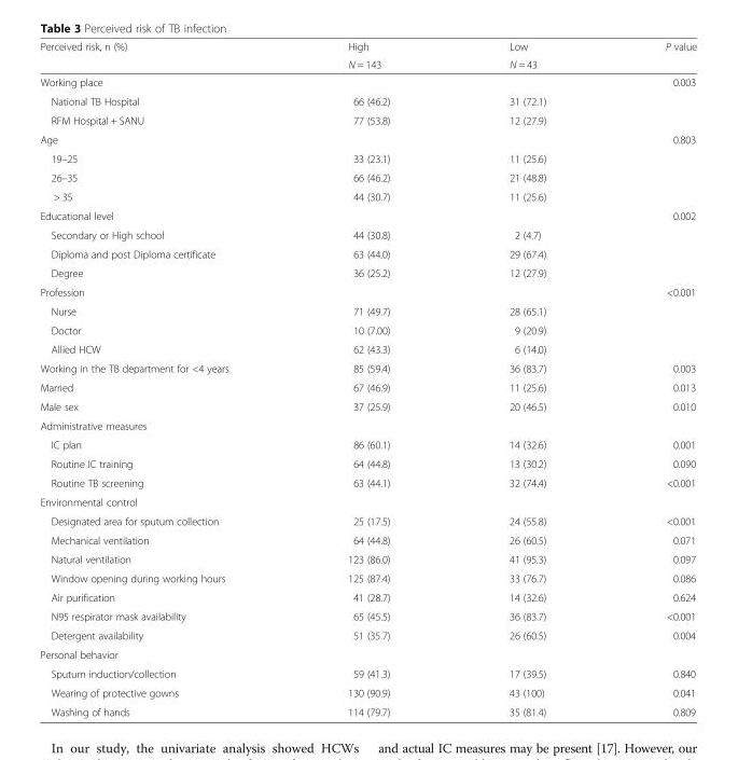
<table><thead><tr><td rowspan="2">Perceived risk, n (%)</td><td rowspan="2">High N = 143</td><td rowspan="2">Low N = 43</td><td rowspan="2">P value</td></tr><tr></tr></thead><tbody><tr><td>Working place</td><td></td><td></td><td>0.003</td></tr><tr><td>National TB Hospital</td><td>66 (46.2)</td><td>31 (72.1)</td><td></td></tr><tr><td>RFM Hospital + SANU</td><td>77 (53.8)</td><td>12 (27.9)</td><td></td></tr><tr><td>Age</td><td></td><td></td><td>0.803</td></tr><tr><td>19–25</td><td>33 (23.1)</td><td>11 (25.6)</td><td></td></tr><tr><td>26–35</td><td>66 (46.2)</td><td>21 (48.8)</td><td></td></tr><tr><td>&gt; 35</td><td>44 (30.7)</td><td>11 (25.6)</td><td></td></tr><tr><td>Educational level</td><td></td><td></td><td>0.002</td></tr><tr><td>Secondary or High school</td><td>44 (30.8)</td><td>2 (4.7)</td><td></td></tr><tr><td>Diploma and post Diploma certificate</td><td>63 (44.0)</td><td>29 (67.4)</td><td></td></tr><tr><td>Degree</td><td>36 (25.2)</td><td>12 (27.9)</td><td></td></tr><tr><td>Profession</td><td></td><td></td><td>&lt;0.001</td></tr><tr><td>Nurse</td><td>71 (49.7)</td><td>28 (65.1)</td><td></td></tr><tr><td>Doctor</td><td>10 (7.00)</td><td>9 (20.9)</td><td></td></tr><tr><td>Allied HCW</td><td>62 (43.3)</td><td>6 (14.0)</td><td></td></tr><tr><td>Working in the TB department for &lt;4 years</td><td>85 (59.4)</td><td>36 (83.7)</td><td>0.003</td></tr><tr><td>Married</td><td>67 (46.9)</td><td>11 (25.6)</td><td>0.013</td></tr><tr><td>Male sex</td><td>37 (25.9)</td><td>20 (46.5)</td><td>0.010</td></tr><tr><td colspan="4">Administrative measures</td></tr><tr><td>IC plan</td><td>86 (60.1)</td><td>14 (32.6)</td><td>0.001</td></tr><tr><td>Routine IC training</td><td>64 (44.8)</td><td>13 (30.2)</td><td>0.090</td></tr><tr><td>Routine TB screening</td><td>63 (44.1)</td><td>32 (74.4)</td><td>&lt;0.001</td></tr><tr><td colspan="4">Environmental control</td></tr><tr><td>Designated area for sputum collection</td><td>25 (17.5)</td><td>24 (55.8)</td><td>&lt;0.001</td></tr><tr><td>Mechanical ventilation</td><td>64 (44.8)</td><td>26 (60.5)</td><td>0.071</td></tr><tr><td>Natural ventilation</td><td>123 (86.0)</td><td>41 (95.3)</td><td>0.097</td></tr><tr><td>Window opening during working hours</td><td>125 (87.4)</td><td>33 (76.7)</td><td>0.086</td></tr><tr><td>Air purification</td><td>41 (28.7)</td><td>14 (32.6)</td><td>0.624</td></tr><tr><td>N95 respirator mask availability</td><td>65 (45.5)</td><td>36 (83.7)</td><td>&lt;0.001</td></tr><tr><td>Detergent availability</td><td>51 (35.7)</td><td>26 (60.5)</td><td>0.004</td></tr><tr><td colspan="4">Personal behavior</td></tr><tr><td>Sputum induction/collection</td><td>59 (41.3)</td><td>17 (39.5)</td><td>0.840</td></tr><tr><td>Wearing of protective gowns</td><td>130 (90.9)</td><td>43 (100)</td><td>0.041</td></tr><tr><td>Washing of hands</td><td>114 (79.7)</td><td>35 (81.4)</td><td>0.809</td></tr></tbody></table>